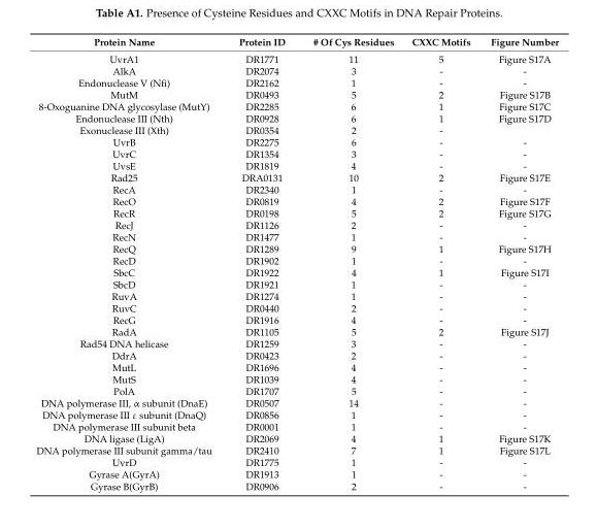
<table><thead><tr><td>Protein Name</td><td>Protein ID</td><td># Of Cys Residues</td><td>CXXC Motifs</td><td>Figure Number</td></tr></thead><tbody><tr><td>UvrA1</td><td>DR1771</td><td>11</td><td>5</td><td>Figure S17A</td></tr><tr><td>AlkA</td><td>DR2074</td><td>3</td><td>-</td><td>-</td></tr><tr><td>Endonuclease V (Nfi)</td><td>DR2162</td><td>1</td><td>-</td><td>-</td></tr><tr><td>MutM</td><td>DR0493</td><td>5</td><td>2</td><td>Figure S17B</td></tr><tr><td>8-Oxoguanine DNA glycosylase (MutY)</td><td>DR2285</td><td>6</td><td>1</td><td>Figure S17C</td></tr><tr><td>Endonuclease III (Nth)</td><td>DR0928</td><td>6</td><td>1</td><td>Figure S17D</td></tr><tr><td>Exonuclease III (Xth)</td><td>DR0354</td><td>2</td><td>-</td><td></td></tr><tr><td>UvrB</td><td>DR2275</td><td>6</td><td>-</td><td>-</td></tr><tr><td>UvrC</td><td>DR1354</td><td>3</td><td>-</td><td>-</td></tr><tr><td>UvsE</td><td>DR1819</td><td>4</td><td>-</td><td>-</td></tr><tr><td>Rad25</td><td>DRA0131</td><td>10</td><td>2</td><td>Figure S17E</td></tr><tr><td>RecA</td><td>DR2340</td><td>1</td><td>-</td><td>-</td></tr><tr><td>RecO</td><td>DR0819</td><td>4</td><td>2</td><td>Figure S17F</td></tr><tr><td>RecR</td><td>DR0198</td><td>5</td><td>2</td><td>Figure S17G</td></tr><tr><td>RecJ</td><td>DR1126</td><td>2</td><td>-</td><td>-</td></tr><tr><td>RecN</td><td>DR1477</td><td>1</td><td>-</td><td>-</td></tr><tr><td>RecQ</td><td>DR1289</td><td>9</td><td>1</td><td>Figure S17H</td></tr><tr><td>RecD</td><td>DR1902</td><td>1</td><td>-</td><td>-</td></tr><tr><td>SbcC</td><td>DR1922</td><td>4</td><td>1</td><td>Figure S17I</td></tr><tr><td>SbcD</td><td>DR1921</td><td>1</td><td>-</td><td>-</td></tr><tr><td>RuvA</td><td>DR1274</td><td>1</td><td>-</td><td>-</td></tr><tr><td>RuvC</td><td>DR0440</td><td>2</td><td>-</td><td>-</td></tr><tr><td>RecG</td><td>DR1916</td><td>4</td><td>-</td><td>-</td></tr><tr><td>RadA</td><td>DR1105</td><td>5</td><td>2</td><td>Figure S17J</td></tr><tr><td>Rad54 DNA helicase</td><td>DR1259</td><td>3</td><td>-</td><td>-</td></tr><tr><td>DdrA</td><td>DR0423</td><td>2</td><td>-</td><td>-</td></tr><tr><td>MutL</td><td>DR1696</td><td>4</td><td>-</td><td>-</td></tr><tr><td>MutS</td><td>DR1039</td><td>4</td><td>-</td><td>-</td></tr><tr><td>PolA</td><td>DR1707</td><td>5</td><td>-</td><td>-</td></tr><tr><td>DNA polymerase III, α subunit (DnaE)</td><td>DR0507</td><td>14</td><td>-</td><td>-</td></tr><tr><td>DNA polymerase III ε subunit (DnaQ)</td><td>DR0856</td><td>1</td><td>-</td><td>-</td></tr><tr><td>DNA polymerase III subunit beta</td><td>DR0001</td><td>1</td><td>-</td><td>-</td></tr><tr><td>DNA ligase (LigA)</td><td>DR2069</td><td>4</td><td>1</td><td>Figure S17K</td></tr><tr><td>DNA polymerase III subunit gamma/tau</td><td>DR2410</td><td>7</td><td>1</td><td>Figure S17L</td></tr><tr><td>UvrD</td><td>DR1775</td><td>1</td><td>-</td><td>-</td></tr><tr><td>Gyrase A(GyrA)</td><td>DR1913</td><td>1</td><td>-</td><td>-</td></tr><tr><td>Gyrase B(GyrB)</td><td>DR0906</td><td>2</td><td>-</td><td>-</td></tr></tbody></table>